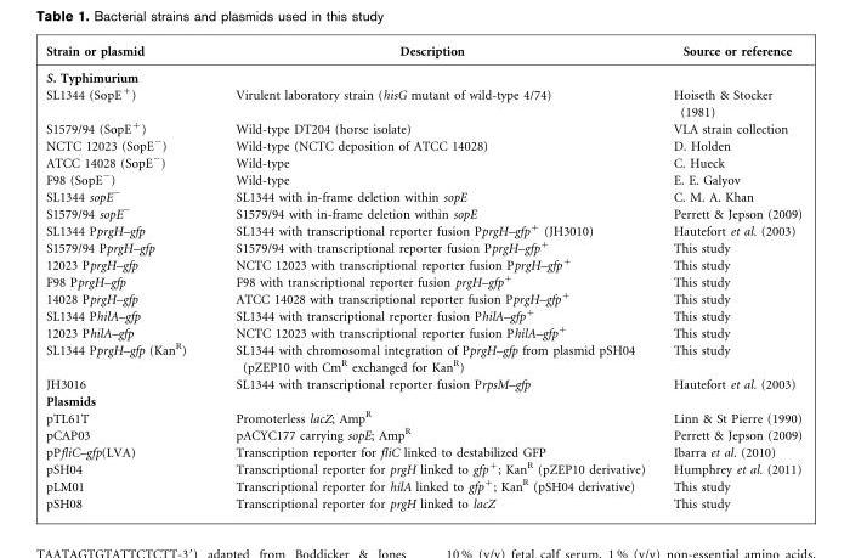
<table><thead><tr><td>Strain or plasmid</td><td>Description</td><td>Source or reference</td></tr></thead><tbody><tr><td colspan="3">S. Typhimurium</td></tr><tr><td>SL1344 (SopE<sup>+</sup>)</td><td>Virulent laboratory strain (hisG mutant of wild-type 4/74)</td><td>Hoiseth &amp; Stocker (1981)</td></tr><tr><td>S1579/94 (SopE<sup>+</sup>)</td><td>Wild-type DT204 (horse isolate)</td><td>VLA strain collection</td></tr><tr><td>NCTC 12023 (SopE<sup>−</sup>)</td><td>Wild-type (NCTC deposition of ATCC 14028)</td><td>D. Holden</td></tr><tr><td>ATCC 14028 (SopE<sup>−</sup>)</td><td>Wild-type</td><td>C. Hueck</td></tr><tr><td>F98 (SopE<sup>−</sup>)</td><td>Wild-type</td><td>E. E. Galyov</td></tr><tr><td>SL1344 sopE<sup>−</sup></td><td>SL1344 with in-frame deletion within sopE</td><td>C. M. A. Khan</td></tr><tr><td>S1579/94 sopE<sup>−</sup></td><td>S1579/94 with in-frame deletion within sopE</td><td>Perrett &amp; Jepson (2009)</td></tr><tr><td>SL1344 PprgH–gfp</td><td>SL1344 with transcriptional reporter fusion PprgH–gfp<sup>+</sup> (JH3010)</td><td>Hautefort et al. (2003)</td></tr><tr><td>S1579/94 PprgH–gfp</td><td>S1579/94 with transcriptional reporter fusion PprgH–gfp<sup>+</sup></td><td>This study</td></tr><tr><td>12023 PprgH–gfp</td><td>NCTC 12023 with transcriptional reporter fusion PprgH–gfp<sup>+</sup></td><td>This study</td></tr><tr><td>F98 PprgH–gfp</td><td>F98 with transcriptional reporter fusion prgH–gfp<sup>+</sup></td><td>This study</td></tr><tr><td>14028 PprgH–gfp</td><td>ATCC 14028 with transcriptional reporter fusion PprgH–gfp<sup>+</sup></td><td>This study</td></tr><tr><td>SL1344 PhilA–gfp</td><td>SL1344 with transcriptional reporter fusion PhilA–gfp<sup>+</sup></td><td>This study</td></tr><tr><td>12023 PhilA–gfp</td><td>NCTC 12023 with transcriptional reporter fusion PhilA–gfp<sup>+</sup></td><td>This study</td></tr><tr><td>SL1344 PprgH–gfp (Kan<sup>R</sup>)</td><td>SL1344 with chromosomal integration of PprgH–gfp from plasmid pSH04 (pZEP10 with Cm<sup>R</sup> exchanged for Kan<sup>R</sup>)</td><td>This study</td></tr><tr><td>JH3016</td><td>SL1344 with transcriptional reporter fusion PrpsM–gfp</td><td>Hautefort et al. (2003)</td></tr><tr><td colspan="3">Plasmids</td></tr><tr><td>pTL61T</td><td>Promoterless lacZ; Amp<sup>R</sup></td><td>Linn &amp; St Pierre (1990)</td></tr><tr><td>pCAP03</td><td>pACYC177 carrying sopE; Amp<sup>R</sup></td><td>Perrett &amp; Jepson (2009)</td></tr><tr><td>pPfliC–gfp(LVA)</td><td>Transcription reporter for fliC linked to destabilized GFP</td><td>Ibarra et al. (2010)</td></tr><tr><td>pSH04</td><td>Transcriptional reporter for prgH linked to gfp<sup>+</sup>; Kan<sup>R</sup> (pZEP10 derivative)</td><td>Humphrey et al. (2011)</td></tr><tr><td>pLM01</td><td>Transcriptional reporter for hilA linked to gfp<sup>+</sup>; Kan<sup>R</sup> (pSH04 derivative)</td><td>This study</td></tr><tr><td>pSH08</td><td>Transcriptional reporter for prgH linked to lacZ</td><td>This study</td></tr></tbody></table>